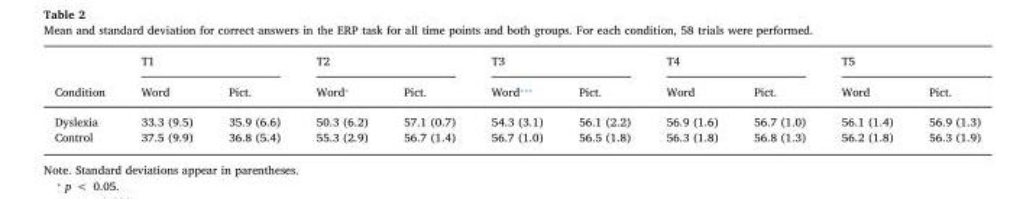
<table><thead><tr><td rowspan="2">Condition</td><td colspan="2">T1</td><td colspan="2">T2</td><td colspan="2">T3</td><td colspan="2">T4</td><td colspan="2">T5</td></tr><tr><td>Word</td><td>Pict.</td><td>Word⁎</td><td>Pict.</td><td>Word⁎⁎⁎</td><td>Pict.</td><td>Word</td><td>Pict.</td><td>Word</td><td>Pict.</td></tr></thead><tbody><tr><td>Dyslexia</td><td>33.3 (9.5)</td><td>35.9 (6.6)</td><td>50.3 (6.2)</td><td>57.1 (0.7)</td><td>54.3 (3.1)</td><td>56.1 (2.2)</td><td>56.9 (1.6)</td><td>56.7 (1.0)</td><td>56.1 (1.4)</td><td>56.9 (1.3)</td></tr><tr><td>Control</td><td>37.5 (9.9)</td><td>36.8 (5.4)</td><td>55.3 (2.9)</td><td>56.7 (1.4)</td><td>56.7 (1.0)</td><td>56.5 (1.8)</td><td>56.3 (1.8)</td><td>56.8 (1.3)</td><td>56.2 (1.8)</td><td>56.3 (1.9)</td></tr></tbody></table>